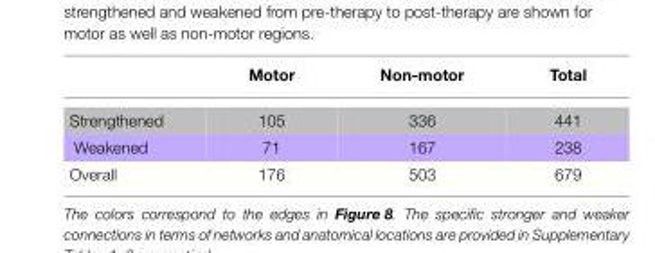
<table><thead><tr><td></td><td>Motor</td><td>Non-motor</td><td>Total</td></tr></thead><tbody><tr><td>Strengthened</td><td>105</td><td>336</td><td>441</td></tr><tr><td>Weakened</td><td>71</td><td>167</td><td>238</td></tr><tr><td>Overall</td><td>176</td><td>503</td><td>679</td></tr></tbody></table>